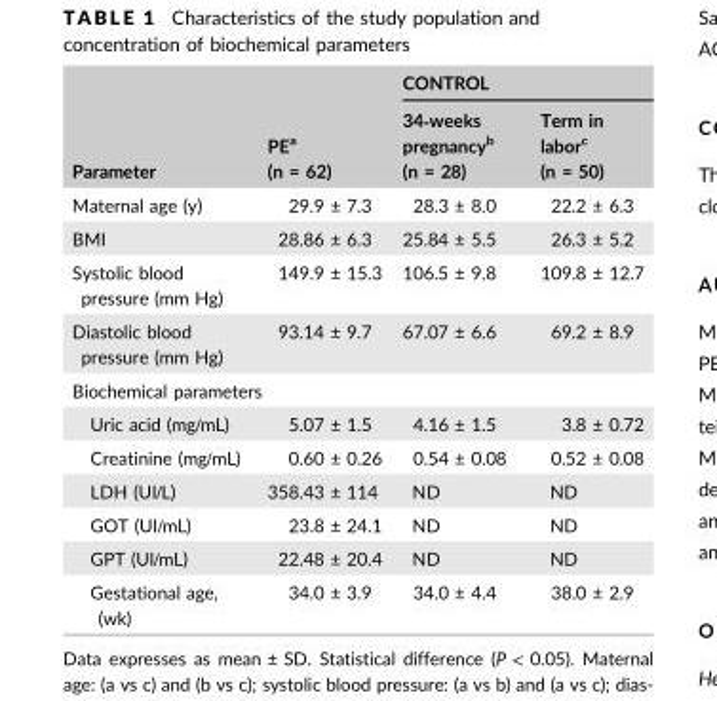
<table><thead><tr><td rowspan="2">Parameter</td><td rowspan="2">PE<sup>a</sup> (n = 62)</td><td colspan="2">CONTROL</td></tr><tr><td>34‐weeks pregnancy<sup>b</sup> (n = 28)</td><td>Term in labor<sup>c</sup> (n = 50)</td></tr></thead><tbody><tr><td>Maternal age (y)</td><td>29.9 ± 7.3</td><td>28.3 ± 8.0</td><td>22.2 ± 6.3</td></tr><tr><td>BMI</td><td>28.86 ± 6.3</td><td>25.84 ± 5.5</td><td>26.3 ± 5.2</td></tr><tr><td>Systolic blood pressure (mm Hg)</td><td>149.9 ± 15.3</td><td>106.5 ± 9.8</td><td>109.8 ± 12.7</td></tr><tr><td>Diastolic blood pressure (mm Hg)</td><td>93.14 ± 9.7</td><td>67.07 ± 6.6</td><td>69.2 ± 8.9</td></tr><tr><td colspan="4">Biochemical parameters</td></tr><tr><td>Uric acid (mg/mL)</td><td>5.07 ± 1.5</td><td>4.16 ± 1.5</td><td>3.8 ± 0.72</td></tr><tr><td>Creatinine (mg/mL)</td><td>0.60 ± 0.26</td><td>0.54 ± 0.08</td><td>0.52 ± 0.08</td></tr><tr><td>LDH (UI/L)</td><td>358.43 ± 114</td><td>ND</td><td>ND</td></tr><tr><td>GOT (UI/mL)</td><td>23.8 ± 24.1</td><td>ND</td><td>ND</td></tr><tr><td>GPT (UI/mL)</td><td>22.48 ± 20.4</td><td>ND</td><td>ND</td></tr><tr><td>Gestational age, (wk)</td><td>34.0 ± 3.9</td><td>34.0 ± 4.4</td><td>38.0 ± 2.9</td></tr></tbody></table>